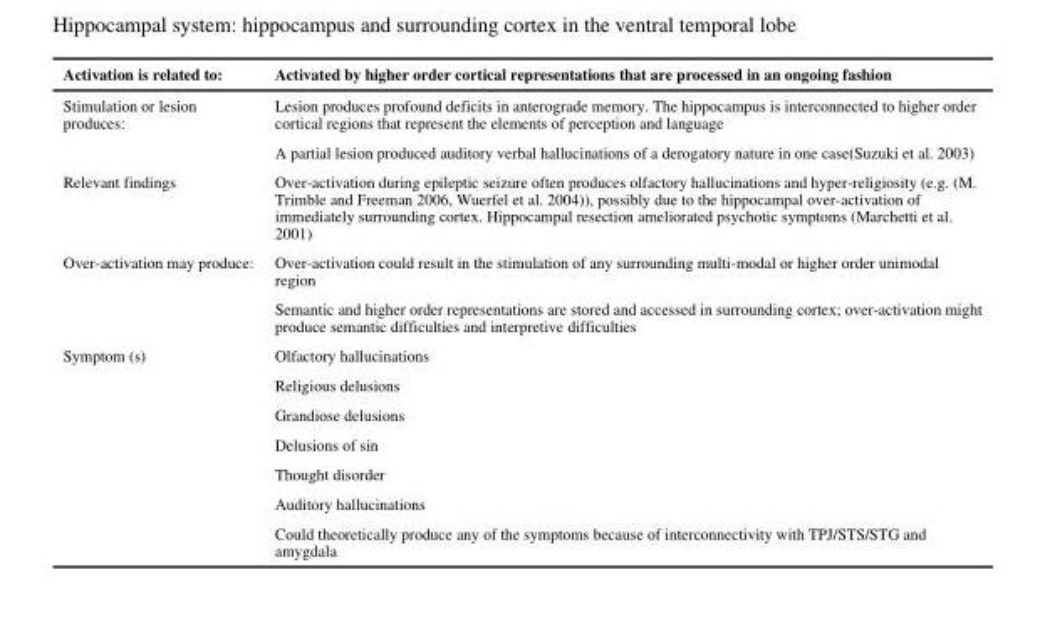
<table><thead><tr><td>Activation is related to:</td><td>Activated by higher order cortical representations that are processed in an ongoing fashion</td></tr></thead><tbody><tr><td rowspan="2">Stimulation or lesion produces:</td><td>Lesion produces profound deficits in anterograde memory. The hippocampus is interconnected to higher order cortical regions that represent the elements of perception and language</td></tr><tr><td>A partial lesion produced auditory verbal hallucinations of a derogatory nature in one case(Suzuki et al. 2003)</td></tr><tr><td>Relevant findings</td><td>Over-activation during epileptic seizure often produces olfactory hallucinations and hyper-religiosity (e.g. (M. Trimble and Freeman 2006, Wuerfel et al. 2004)), possibly due to the hippocampal over-activation of immediately surrounding cortex. Hippocampal resection ameliorated psychotic symptoms (Marchetti et al. 2001)</td></tr><tr><td rowspan="2">Over-activation may produce:</td><td>Over-activation could result in the stimulation of any surrounding multi-modal or higher order unimodal region</td></tr><tr><td>Semantic and higher order representations are stored and accessed in surrounding cortex; over-activation might produce semantic difficulties and interpretive difficulties</td></tr><tr><td rowspan="7">Symptom (s)</td><td>Olfactory hallucinations</td></tr><tr><td>Religious delusions</td></tr><tr><td>Grandiose delusions</td></tr><tr><td>Delusions of sin</td></tr><tr><td>Thought disorder</td></tr><tr><td>Auditory hallucinations</td></tr><tr><td>Could theoretically produce any of the symptoms because of interconnectivity with TPJ/STS/STG and amygdala</td></tr></tbody></table>